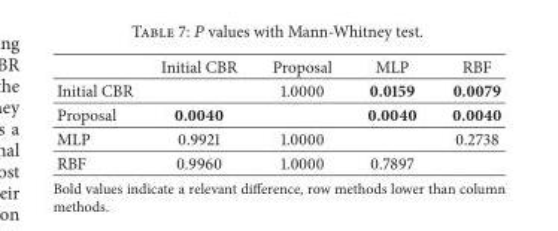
<table><thead><tr><td></td><td>Initial CBR</td><td>Proposal</td><td>MLP</td><td>RBF</td></tr></thead><tbody><tr><td>Initial CBR</td><td></td><td>1.0000</td><td>0.0159</td><td>0.0079</td></tr><tr><td>Proposal</td><td>0.0040</td><td></td><td>0.0040</td><td>0.0040</td></tr><tr><td>MLP</td><td>0.9921</td><td>1.0000</td><td></td><td>0.2738</td></tr><tr><td>RBF</td><td>0.9960</td><td>1.0000</td><td>0.7897</td><td></td></tr></tbody></table>